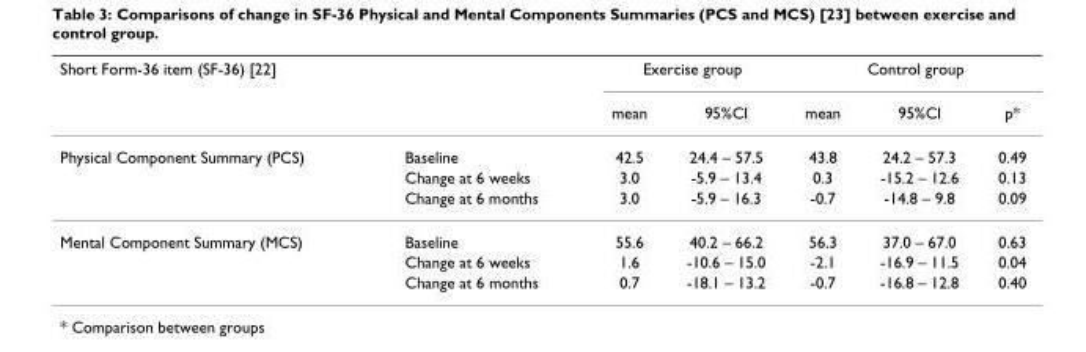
<table><thead><tr><td colspan="2">Short Form-36 item (SF-36) [22]</td><td colspan="2">Exercise group</td><td colspan="3">Control group</td></tr><tr><td></td><td></td><td>mean</td><td>95%CI</td><td>mean</td><td>95%CI</td><td>p*</td></tr></thead><tbody><tr><td rowspan="3">Physical Component Summary (PCS)</td><td>Baseline</td><td>42.5</td><td>24.4 – 57.5</td><td>43.8</td><td>24.2 – 57.3</td><td>0.49</td></tr><tr><td>Change at 6 weeks</td><td>3.0</td><td>-5.9 – 13.4</td><td>0.3</td><td>-15.2 – 12.6</td><td>0.13</td></tr><tr><td>Change at 6 months</td><td>3.0</td><td>-5.9 – 16.3</td><td>-0.7</td><td>-14.8 – 9.8</td><td>0.09</td></tr><tr><td rowspan="3">Mental Component Summary (MCS)</td><td>Baseline</td><td>55.6</td><td>40.2 – 66.2</td><td>56.3</td><td>37.0 – 67.0</td><td>0.63</td></tr><tr><td>Change at 6 weeks</td><td>1.6</td><td>-10.6 – 15.0</td><td>-2.1</td><td>-16.9 – 11.5</td><td>0.04</td></tr><tr><td>Change at 6 months</td><td>0.7</td><td>-18.1 – 13.2</td><td>-0.7</td><td>-16.8 – 12.8</td><td>0.40</td></tr></tbody></table>